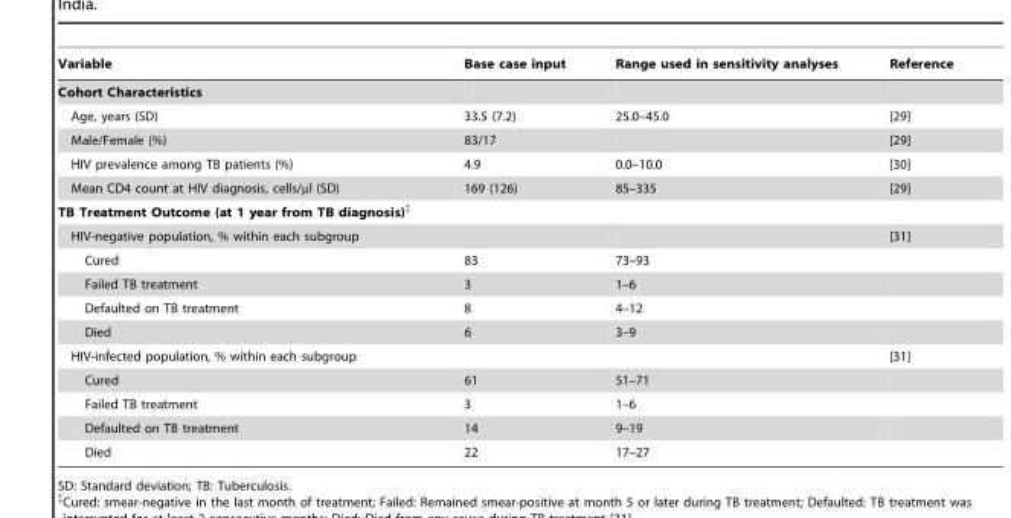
<table><thead><tr><td>Variable</td><td>Base case input</td><td>Range used in sensitivity analyses</td><td>Reference</td></tr></thead><tbody><tr><td colspan="4">Cohort Characteristics</td></tr><tr><td>Age, years (SD)</td><td>33.5 (7.2)</td><td>25.0–45.0</td><td>[29]</td></tr><tr><td>Male/Female (%)</td><td>83/17</td><td></td><td>[29]</td></tr><tr><td>HIV prevalence among TB patients (%)</td><td>4.9</td><td>0.0–10.0</td><td>[30]</td></tr><tr><td>Mean CD4 count at HIV diagnosis, cells/µl (SD)</td><td>169 (126)</td><td>85–335</td><td>[29]</td></tr><tr><td colspan="4">TB Treatment Outcome (at 1 year from TB diagnosis)‡</td></tr><tr><td colspan="2">HIV-negative population, % within each subgroup</td><td></td><td>[31]</td></tr><tr><td>Cured</td><td>83</td><td>73–93</td><td></td></tr><tr><td>Failed TB treatment</td><td>3</td><td>1–6</td><td></td></tr><tr><td>Defaulted on TB treatment</td><td>8</td><td>4–12</td><td></td></tr><tr><td>Died</td><td>6</td><td>3–9</td><td></td></tr><tr><td colspan="2">HIV-infected population, % within each subgroup</td><td></td><td>[31]</td></tr><tr><td>Cured</td><td>61</td><td>51–71</td><td></td></tr><tr><td>Failed TB treatment</td><td>3</td><td>1–6</td><td></td></tr><tr><td>Defaulted on TB treatment</td><td>14</td><td>9–19</td><td></td></tr><tr><td>Died</td><td>22</td><td>17–27</td><td></td></tr></tbody></table>